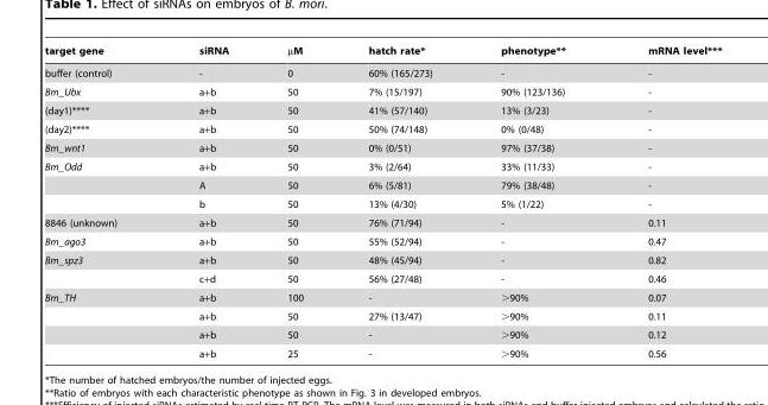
<table><thead><tr><td>target gene</td><td>siRNA</td><td>µM</td><td>hatch rate*</td><td>phenotype**</td><td>mRNA level***</td></tr></thead><tbody><tr><td>buffer (control)</td><td>-</td><td>0</td><td>60% (165/273)</td><td>-</td><td>-</td></tr><tr><td>Bm_Ubx</td><td>a+b</td><td>50</td><td>7% (15/197)</td><td>90% (123/136)</td><td>-</td></tr><tr><td>(day1)****</td><td>a+b</td><td>50</td><td>41% (57/140)</td><td>13% (3/23)</td><td>-</td></tr><tr><td>(day2)****</td><td>a+b</td><td>50</td><td>50% (74/148)</td><td>0% (0/48)</td><td>-</td></tr><tr><td>Bm_wnt1</td><td>a+b</td><td>50</td><td>0% (0/51)</td><td>97% (37/38)</td><td>-</td></tr><tr><td rowspan="3">Bm_Odd</td><td>a+b</td><td>50</td><td>3% (2/64)</td><td>33% (11/33)</td><td>-</td></tr><tr><td>A</td><td>50</td><td>6% (5/81)</td><td>79% (38/48)</td><td>-</td></tr><tr><td>b</td><td>50</td><td>13% (4/30)</td><td>5% (1/22)</td><td>-</td></tr><tr><td>8846 (unknown)</td><td>a+b</td><td>50</td><td>76% (71/94)</td><td>-</td><td>0.11</td></tr><tr><td>Bm_ago3</td><td>a+b</td><td>50</td><td>55% (52/94)</td><td>-</td><td>0.47</td></tr><tr><td rowspan="2">Bm_spz3</td><td>a+b</td><td>50</td><td>48% (45/94)</td><td>-</td><td>0.82</td></tr><tr><td>c+d</td><td>50</td><td>56% (27/48)</td><td>-</td><td>0.46</td></tr><tr><td rowspan="4">Bm_TH</td><td>a+b</td><td>100</td><td>-</td><td>&gt;90%</td><td>0.07</td></tr><tr><td>a+b</td><td>50</td><td>27% (13/47)</td><td>&gt;90%</td><td>0.11</td></tr><tr><td>a+b</td><td>50</td><td>-</td><td>&gt;90%</td><td>0.12</td></tr><tr><td>a+b</td><td>25</td><td>-</td><td>&gt;90%</td><td>0.56</td></tr></tbody></table>